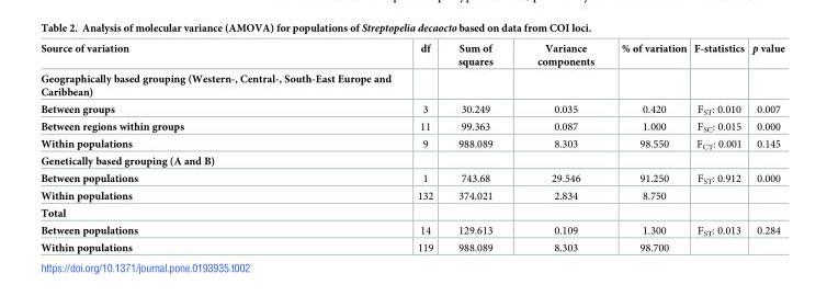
<table><thead><tr><td>Source of variation</td><td>df</td><td>Sum of squares</td><td>Variance components</td><td>% of variation</td><td>F-statistics</td><td>p value</td></tr></thead><tbody><tr><td colspan="7">Geographically based grouping (Western-, Central-, South-East Europe and Caribbean)</td></tr><tr><td>Between groups</td><td>3</td><td>30.249</td><td>0.035</td><td>0.420</td><td>FST: 0.010</td><td>0.007</td></tr><tr><td>Between regions within groups</td><td>11</td><td>99.363</td><td>0.087</td><td>1.000</td><td>FSC: 0.015</td><td>0.000</td></tr><tr><td>Within populations</td><td>9</td><td>988.089</td><td>8.303</td><td>98.550</td><td>FCT: 0.001</td><td>0.145</td></tr><tr><td colspan="7">Genetically based grouping (A and B)</td></tr><tr><td>Between populations</td><td>1</td><td>743.68</td><td>29.546</td><td>91.250</td><td>FST: 0.912</td><td>0.000</td></tr><tr><td>Within populations</td><td>132</td><td>374.021</td><td>2.834</td><td>8.750</td><td></td><td></td></tr><tr><td colspan="7">Total</td></tr><tr><td>Between populations</td><td>14</td><td>129.613</td><td>0.109</td><td>1.300</td><td>FST: 0.013</td><td>0.284</td></tr><tr><td>Within populations</td><td>119</td><td>988.089</td><td>8.303</td><td>98.700</td><td></td><td></td></tr></tbody></table>